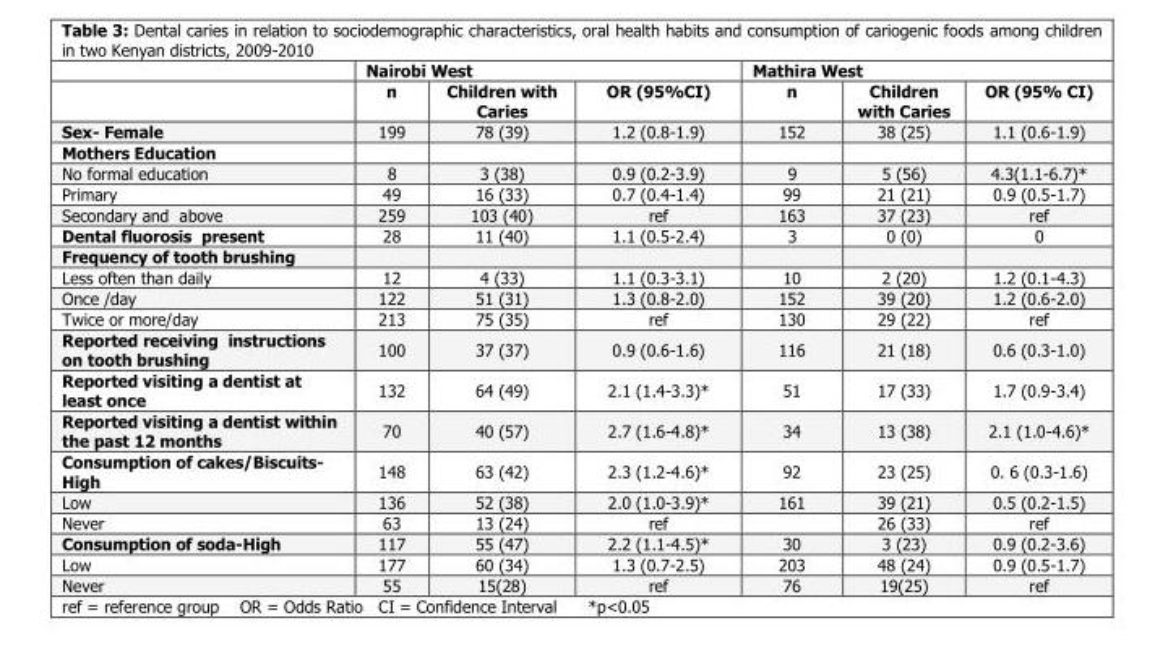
<table><thead><tr><td rowspan="2"></td><td colspan="3">Nairobi West</td><td colspan="3">Mathira West</td></tr><tr><td>n</td><td>Children with Caries</td><td>OR (95%CI)</td><td>n</td><td>Children with Caries</td><td>OR (95% CI)</td></tr></thead><tbody><tr><td>Sex- Female</td><td>199</td><td>78 (39)</td><td>1.2 (0.8-1.9)</td><td>152</td><td>38 (25)</td><td>1.1 (0.6-1.9)</td></tr><tr><td colspan="7">Mothers Education</td></tr><tr><td>No formal education</td><td>8</td><td>3 (38)</td><td>0.9 (0.2-3.9)</td><td>9</td><td>5 (56)</td><td>4.3(1.1-6.7)*</td></tr><tr><td>Primary</td><td>49</td><td>16 (33)</td><td>0.7 (0.4-1.4)</td><td>99</td><td>21 (21)</td><td>0.9 (0.5-1.7)</td></tr><tr><td>Secondary and above</td><td>259</td><td>103 (40)</td><td>ref</td><td>163</td><td>37 (23)</td><td>ref</td></tr><tr><td>Dental fluorosis present</td><td>28</td><td>11 (40)</td><td>1.1 (0.5-2.4)</td><td>3</td><td>0 (0)</td><td>0</td></tr><tr><td colspan="7">Frequency of tooth brushing</td></tr><tr><td>Less often than daily</td><td>12</td><td>4 (33)</td><td>1.1 (0.3-3.1)</td><td>10</td><td>2 (20)</td><td>1.2 (0.1-4.3)</td></tr><tr><td>Once /day</td><td>122</td><td>51 (31)</td><td>1.3 (0.8-2.0)</td><td>152</td><td>39 (20)</td><td>1.2 (0.6-2.0)</td></tr><tr><td>Twice or more/day</td><td>213</td><td>75 (35)</td><td>ref</td><td>130</td><td>29 (22)</td><td>ref</td></tr><tr><td>Reported receiving instructions on tooth brushing</td><td>100</td><td>37 (37)</td><td>0.9 (0.6-1.6)</td><td>116</td><td>21 (18)</td><td>0.6 (0.3-1.0)</td></tr><tr><td>Reported visiting a dentist at least once</td><td>132</td><td>64 (49)</td><td>2.1 (1.4-3.3)*</td><td>51</td><td>17 (33)</td><td>1.7 (0.9-3.4)</td></tr><tr><td>Reported visiting a dentist within the past 12 months</td><td>70</td><td>40 (57)</td><td>2.7 (1.6-4.8)*</td><td>34</td><td>13 (38)</td><td>2.1 (1.0-4.6)*</td></tr><tr><td>Consumption of cakes/Biscuits- High</td><td>148</td><td>63 (42)</td><td>2.3 (1.2-4.6)*</td><td>92</td><td>23 (25)</td><td>0. 6 (0.3-1.6)</td></tr><tr><td>Low</td><td>136</td><td>52 (38)</td><td>2.0 (1.0-3.9)*</td><td>161</td><td>39 (21)</td><td>0.5 (0.2-1.5)</td></tr><tr><td>Never</td><td>63</td><td>13 (24)</td><td>ref</td><td></td><td>26 (33)</td><td>ref</td></tr><tr><td>Consumption of soda-High</td><td>117</td><td>55 (47)</td><td>2.2 (1.1-4.5)*</td><td>30</td><td>3 (23)</td><td>0.9 (0.2-3.6)</td></tr><tr><td>Low</td><td>177</td><td>60 (34)</td><td>1.3 (0.7-2.5)</td><td>203</td><td>48 (24)</td><td>0.9 (0.5-1.7)</td></tr><tr><td>Never</td><td>55</td><td>15(28)</td><td>ref</td><td>76</td><td>19(25)</td><td>ref</td></tr></tbody></table>